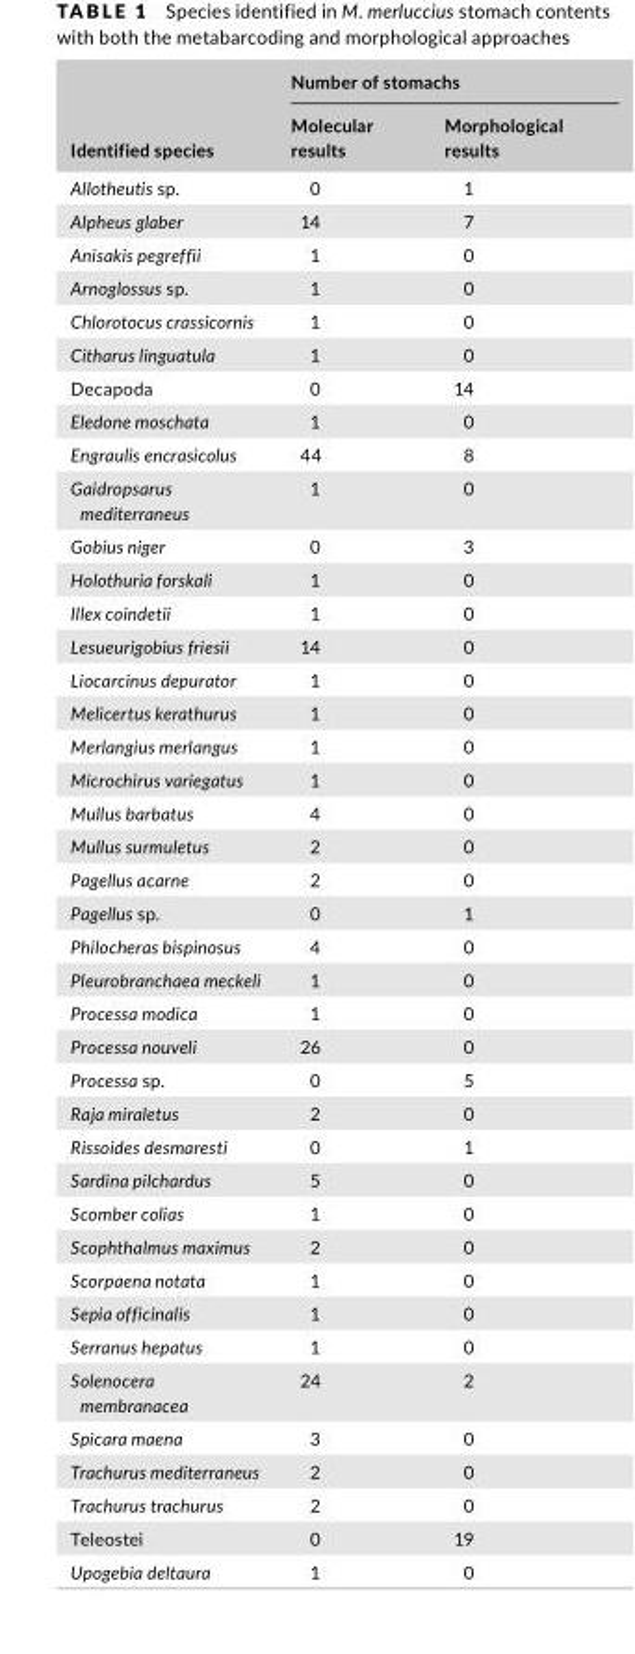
<table><thead><tr><td rowspan="2">Identified species</td><td colspan="2">Number of stomachs</td></tr><tr><td>Molecular results</td><td>Morphological results</td></tr></thead><tbody><tr><td>Allotheutis sp.</td><td>0</td><td>1</td></tr><tr><td>Alpheus glaber</td><td>14</td><td>7</td></tr><tr><td>Anisakis pegreffii</td><td>1</td><td>0</td></tr><tr><td>Arnoglossus sp.</td><td>1</td><td>0</td></tr><tr><td>Chlorotocus crassicornis</td><td>1</td><td>0</td></tr><tr><td>Citharus linguatula</td><td>1</td><td>0</td></tr><tr><td>Decapoda</td><td>0</td><td>14</td></tr><tr><td>Eledone moschata</td><td>1</td><td>0</td></tr><tr><td>Engraulis encrasicolus</td><td>44</td><td>8</td></tr><tr><td>Gaidropsarus mediterraneus</td><td>1</td><td>0</td></tr><tr><td>Gobius niger</td><td>0</td><td>3</td></tr><tr><td>Holothuria forskali</td><td>1</td><td>0</td></tr><tr><td>Illex coindetii</td><td>1</td><td>0</td></tr><tr><td>Lesueurigobius friesii</td><td>14</td><td>0</td></tr><tr><td>Liocarcinus depurator</td><td>1</td><td>0</td></tr><tr><td>Melicertus kerathurus</td><td>1</td><td>0</td></tr><tr><td>Merlangius merlangus</td><td>1</td><td>0</td></tr><tr><td>Microchirus variegatus</td><td>1</td><td>0</td></tr><tr><td>Mullus barbatus</td><td>4</td><td>0</td></tr><tr><td>Mullus surmuletus</td><td>2</td><td>0</td></tr><tr><td>Pagellus acarne</td><td>2</td><td>0</td></tr><tr><td>Pagellus sp.</td><td>0</td><td>1</td></tr><tr><td>Philocheras bispinosus</td><td>4</td><td>0</td></tr><tr><td>Pleurobranchaea meckeli</td><td>1</td><td>0</td></tr><tr><td>Processa modica</td><td>1</td><td>0</td></tr><tr><td>Processa nouveli</td><td>26</td><td>0</td></tr><tr><td>Processa sp.</td><td>0</td><td>5</td></tr><tr><td>Raja miraletus</td><td>2</td><td>0</td></tr><tr><td>Rissoides desmaresti</td><td>0</td><td>1</td></tr><tr><td>Sardina pilchardus</td><td>5</td><td>0</td></tr><tr><td>Scomber colias</td><td>1</td><td>0</td></tr><tr><td>Scophthalmus maximus</td><td>2</td><td>0</td></tr><tr><td>Scorpaena notata</td><td>1</td><td>0</td></tr><tr><td>Sepia officinalis</td><td>1</td><td>0</td></tr><tr><td>Serranus hepatus</td><td>1</td><td>0</td></tr><tr><td>Solenocera membranacea</td><td>24</td><td>2</td></tr><tr><td>Spicara maena</td><td>3</td><td>0</td></tr><tr><td>Trachurus mediterraneus</td><td>2</td><td>0</td></tr><tr><td>Trachurus trachurus</td><td>2</td><td>0</td></tr><tr><td>Teleostei</td><td>0</td><td>19</td></tr><tr><td>Upogebia deltaura</td><td>1</td><td>0</td></tr></tbody></table>